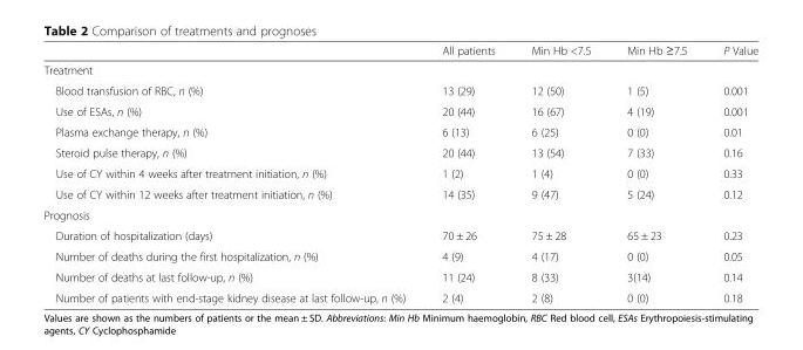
<table><thead><tr><td></td><td>All patients</td><td>Min Hb &lt;7.5</td><td>Min Hb ≥7.5</td><td>P Value</td></tr></thead><tbody><tr><td colspan="5">Treatment</td></tr><tr><td>Blood transfusion of RBC, n (%)</td><td>13 (29)</td><td>12 (50)</td><td>1 (5)</td><td>0.001</td></tr><tr><td>Use of ESAs, n (%)</td><td>20 (44)</td><td>16 (67)</td><td>4 (19)</td><td>0.001</td></tr><tr><td>Plasma exchange therapy, n (%)</td><td>6 (13)</td><td>6 (25)</td><td>0 (0)</td><td>0.01</td></tr><tr><td>Steroid pulse therapy, n (%)</td><td>20 (44)</td><td>13 (54)</td><td>7 (33)</td><td>0.16</td></tr><tr><td>Use of CY within 4 weeks after treatment initiation, n (%)</td><td>1 (2)</td><td>1 (4)</td><td>0 (0)</td><td>0.33</td></tr><tr><td>Use of CY within 12 weeks after treatment initiation, n (%)</td><td>14 (35)</td><td>9 (47)</td><td>5 (24)</td><td>0.12</td></tr><tr><td colspan="5">Prognosis</td></tr><tr><td>Duration of hospitalization (days)</td><td>70 ± 26</td><td>75 ± 28</td><td>65 ± 23</td><td>0.23</td></tr><tr><td>Number of deaths during the first hospitalization, n (%)</td><td>4 (9)</td><td>4 (17)</td><td>0 (0)</td><td>0.05</td></tr><tr><td>Number of deaths at last follow-up, n (%)</td><td>11 (24)</td><td>8 (33)</td><td>3(14)</td><td>0.14</td></tr><tr><td>Number of patients with end-stage kidney disease at last follow-up, n (%)</td><td>2 (4)</td><td>2 (8)</td><td>0 (0)</td><td>0.18</td></tr></tbody></table>